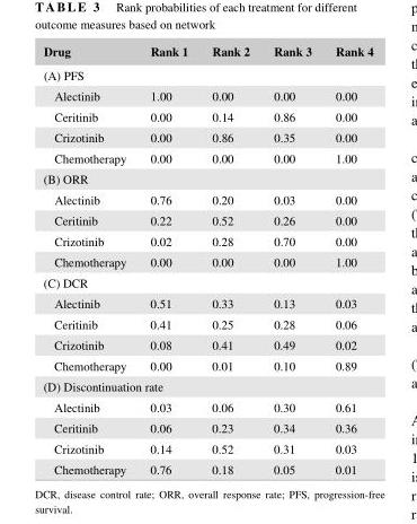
<table><thead><tr><td>Drug</td><td>Rank 1</td><td>Rank 2</td><td>Rank 3</td><td>Rank 4</td></tr></thead><tbody><tr><td colspan="5">(A) PFS</td></tr><tr><td>Alectinib</td><td>1.00</td><td>0.00</td><td>0.00</td><td>0.00</td></tr><tr><td>Ceritinib</td><td>0.00</td><td>0.14</td><td>0.86</td><td>0.00</td></tr><tr><td>Crizotinib</td><td>0.00</td><td>0.86</td><td>0.35</td><td>0.00</td></tr><tr><td>Chemotherapy</td><td>0.00</td><td>0.00</td><td>0.00</td><td>1.00</td></tr><tr><td colspan="5">(B) ORR</td></tr><tr><td>Alectinib</td><td>0.76</td><td>0.20</td><td>0.03</td><td>0.00</td></tr><tr><td>Ceritinib</td><td>0.22</td><td>0.52</td><td>0.26</td><td>0.00</td></tr><tr><td>Crizotinib</td><td>0.02</td><td>0.28</td><td>0.70</td><td>0.00</td></tr><tr><td>Chemotherapy</td><td>0.00</td><td>0.00</td><td>0.00</td><td>1.00</td></tr><tr><td colspan="5">(C) DCR</td></tr><tr><td>Alectinib</td><td>0.51</td><td>0.33</td><td>0.13</td><td>0.03</td></tr><tr><td>Ceritinib</td><td>0.41</td><td>0.25</td><td>0.28</td><td>0.06</td></tr><tr><td>Crizotinib</td><td>0.08</td><td>0.41</td><td>0.49</td><td>0.02</td></tr><tr><td>Chemotherapy</td><td>0.00</td><td>0.01</td><td>0.10</td><td>0.89</td></tr><tr><td colspan="5">(D) Discontinuation rate</td></tr><tr><td>Alectinib</td><td>0.03</td><td>0.06</td><td>0.30</td><td>0.61</td></tr><tr><td>Ceritinib</td><td>0.06</td><td>0.23</td><td>0.34</td><td>0.36</td></tr><tr><td>Crizotinib</td><td>0.14</td><td>0.52</td><td>0.31</td><td>0.03</td></tr><tr><td>Chemotherapy</td><td>0.76</td><td>0.18</td><td>0.05</td><td>0.01</td></tr></tbody></table>